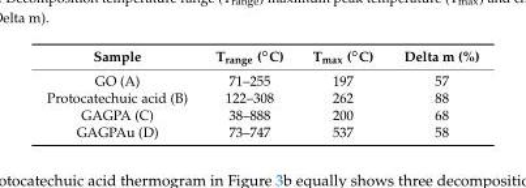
<table><thead><tr><td>Sample</td><td>Trange (◦C)</td><td>Tmax (◦C)</td><td>Delta m (%)</td></tr></thead><tbody><tr><td>GO (A)</td><td>71–255</td><td>197</td><td>57</td></tr><tr><td>Protocatechuic acid (B)</td><td>122–308</td><td>262</td><td>88</td></tr><tr><td>GAGPA (C)</td><td>38–888</td><td>200</td><td>68</td></tr><tr><td>GAGPAu (D)</td><td>73–747</td><td>537</td><td>58</td></tr></tbody></table>